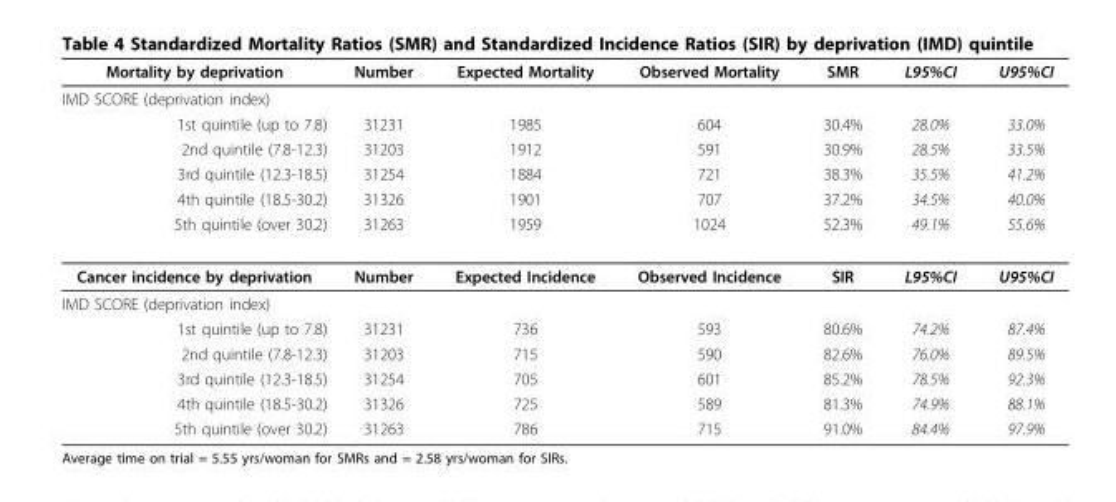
<table><thead><tr><td>Mortality by deprivation</td><td>Number</td><td>Expected Mortality</td><td>Observed Mortality</td><td>SMR</td><td>L95%CI</td><td>U95%CI</td></tr></thead><tbody><tr><td colspan="7">IMD SCORE (deprivation index)</td></tr><tr><td>1st quintile (up to 7.8)</td><td>31231</td><td>1985</td><td>604</td><td>30.4%</td><td>28.0%</td><td>33.0%</td></tr><tr><td>2nd quintile (7.8-12.3)</td><td>31203</td><td>1912</td><td>591</td><td>30.9%</td><td>28.5%</td><td>33.5%</td></tr><tr><td>3rd quintile (12.3-18.5)</td><td>31254</td><td>1884</td><td>721</td><td>38.3%</td><td>35.5%</td><td>41.2%</td></tr><tr><td>4th quintile (18.5-30.2)</td><td>31326</td><td>1901</td><td>707</td><td>37.2%</td><td>34.5%</td><td>40.0%</td></tr><tr><td>5th quintile (over 30.2)</td><td>31263</td><td>1959</td><td>1024</td><td>52.3%</td><td>49.1%</td><td>55.6%</td></tr><tr><td>Cancer incidence by deprivation</td><td>Number</td><td>Expected Incidence</td><td>Observed Incidence</td><td>SIR</td><td>L95%CI</td><td>U95%CI</td></tr><tr><td colspan="7">IMD SCORE (deprivation index)</td></tr><tr><td>1st quintile (up to 7.8)</td><td>31231</td><td>736</td><td>593</td><td>80.6%</td><td>74.2%</td><td>87.4%</td></tr><tr><td>2nd quintile (7.8-12.3)</td><td>31203</td><td>715</td><td>590</td><td>82.6%</td><td>76.0%</td><td>89.5%</td></tr><tr><td>3rd quintile (12.3-18.5)</td><td>31254</td><td>705</td><td>601</td><td>85.2%</td><td>78.5%</td><td>92.3%</td></tr><tr><td>4th quintile (18.5-30.2)</td><td>31326</td><td>725</td><td>589</td><td>81.3%</td><td>74.9%</td><td>88.1%</td></tr><tr><td>5th quintile (over 30.2)</td><td>31263</td><td>786</td><td>715</td><td>91.0%</td><td>84.4%</td><td>97.9%</td></tr></tbody></table>